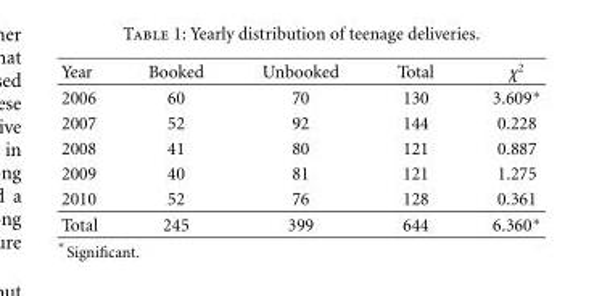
<table><thead><tr><td>Year</td><td>Booked</td><td>Unbooked</td><td>Total</td><td>χ<sup>2</sup></td></tr></thead><tbody><tr><td>2006</td><td>60</td><td>70</td><td>130</td><td>3.609∗</td></tr><tr><td>2007</td><td>52</td><td>92</td><td>144</td><td>0.228</td></tr><tr><td>2008</td><td>41</td><td>80</td><td>121</td><td>0.887</td></tr><tr><td>2009</td><td>40</td><td>81</td><td>121</td><td>1.275</td></tr><tr><td>2010</td><td>52</td><td>76</td><td>128</td><td>0.361</td></tr><tr><td>Total</td><td>245</td><td>399</td><td>644</td><td>6.360∗</td></tr></tbody></table>